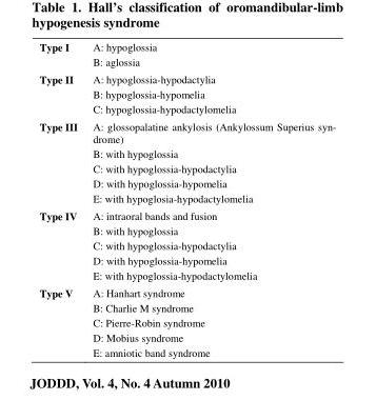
<table><tbody><tr><td>Type I</td><td>A: hypoglossia B: aglossia</td></tr><tr><td>Type II</td><td>A: hypoglossia-hypodactylia B: hypoglossia-hypomelia C: hypoglossia-hypodactylomelia</td></tr><tr><td>Type III</td><td>A: glossopalatine ankylosis (Ankylossum Superius syn- drome) B: with hypoglossia C: with hypoglossia-hypodactylia D: with hypoglossia-hypomelia E: with hypoglosia-hypodactylomelia</td></tr><tr><td>Type IV</td><td>A: intraoral bands and fusion B: with hypoglossia C: with hypoglossia-hypodactylia D: with hypoglossia-hypomelia E: with hypoglossia-hypodactylomelia</td></tr><tr><td>Type V</td><td>A: Hanhart syndrome B: Charlie M syndrome C: Pierre-Robin syndrome D: Mobius syndrome E: amniotic band syndrome</td></tr></tbody></table>